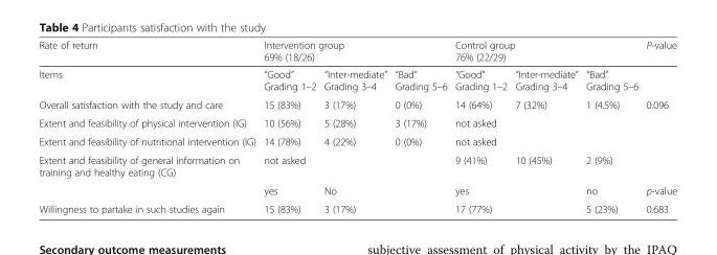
<table><thead><tr><td rowspan="2">Rate of return Items</td><td colspan="3">Intervention group 69% (18/26)</td><td colspan="3">Control group 76% (22/29)</td><td rowspan="2">P-value</td></tr><tr><td>“Good” Grading 1–2</td><td>“Inter-mediate” Grading 3–4</td><td>“Bad” Grading 5–6</td><td>“Good” Grading 1–2</td><td>“Inter-mediate” Grading 3–4</td><td>“Bad” Grading 5–6</td></tr></thead><tbody><tr><td>Overall satisfaction with the study and care</td><td>15 (83%)</td><td>3 (17%)</td><td>0 (0%)</td><td>14 (64%)</td><td>7 (32%)</td><td>1 (4.5%)</td><td>0.096</td></tr><tr><td>Extent and feasibility of physical intervention (IG)</td><td>10 (56%)</td><td>5 (28%)</td><td>3 (17%)</td><td colspan="3">not asked</td><td></td></tr><tr><td>Extent and feasibility of nutritional intervention (IG)</td><td>14 (78%)</td><td>4 (22%)</td><td>0 (0%)</td><td colspan="3">not asked</td><td></td></tr><tr><td rowspan="2">Extent and feasibility of general information on training and healthy eating (CG)</td><td colspan="3">not asked</td><td>9 (41%)</td><td>10 (45%)</td><td>2 (9%)</td><td></td></tr><tr><td>yes</td><td colspan="2">No</td><td colspan="2">yes</td><td>no</td><td>p-value</td></tr><tr><td>Willingness to partake in such studies again</td><td>15 (83%)</td><td colspan="2">3 (17%)</td><td colspan="2">17 (77%)</td><td>5 (23%)</td><td>0.683</td></tr></tbody></table>